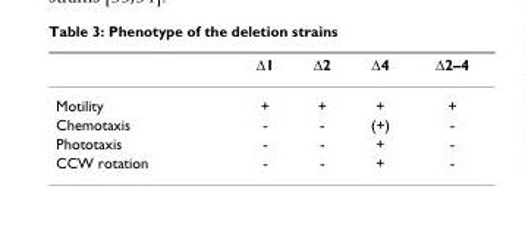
<table><thead><tr><td></td><td>Δ1</td><td>Δ2</td><td>Δ4</td><td>Δ2–4</td></tr></thead><tbody><tr><td>Motility</td><td>+</td><td>+</td><td>+</td><td>+</td></tr><tr><td>Chemotaxis</td><td>-</td><td>-</td><td>(+)</td><td>-</td></tr><tr><td>Phototaxis</td><td>-</td><td>-</td><td>+</td><td>-</td></tr><tr><td>CCW rotation</td><td>-</td><td>-</td><td>+</td><td>-</td></tr></tbody></table>